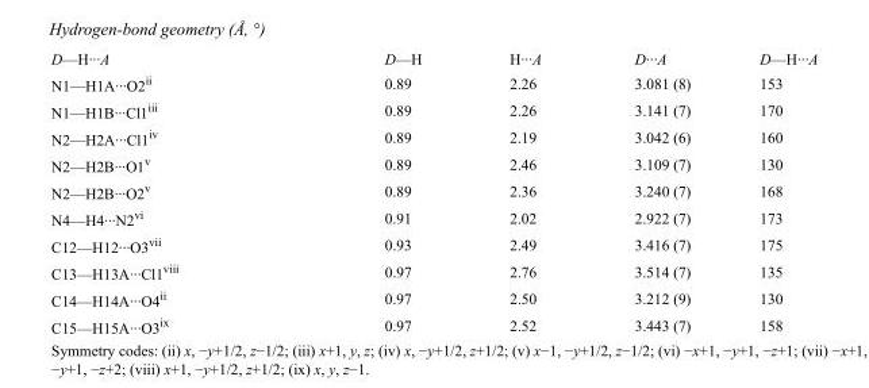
<table><tbody><tr><td>D—H···A</td><td>D—H</td><td>H···A</td><td>D···A</td><td>D—H···A</td></tr><tr><td>N1—H1A···O2<sup>ii</sup></td><td>0.89</td><td>2.26</td><td>3.081 (8)</td><td>153</td></tr><tr><td>N1—H1B···Cl1<sup>iii</sup></td><td>0.89</td><td>2.26</td><td>3.141 (7)</td><td>170</td></tr><tr><td>N2—H2A···Cl1<sup>iv</sup></td><td>0.89</td><td>2.19</td><td>3.042 (6)</td><td>160</td></tr><tr><td>N2—H2B···O1<sup>v</sup></td><td>0.89</td><td>2.46</td><td>3.109 (7)</td><td>130</td></tr><tr><td>N2—H2B···O2<sup>v</sup></td><td>0.89</td><td>2.36</td><td>3.240 (7)</td><td>168</td></tr><tr><td>N4—H4···N2<sup>vi</sup></td><td>0.91</td><td>2.02</td><td>2.922 (7)</td><td>173</td></tr><tr><td>C12—H12···O3<sup>vii</sup></td><td>0.93</td><td>2.49</td><td>3.416 (7)</td><td>175</td></tr><tr><td>C13—H13A···Cl1<sup>viii</sup></td><td>0.97</td><td>2.76</td><td>3.514 (7)</td><td>135</td></tr><tr><td>C14—H14A···O4<sup>ii</sup></td><td>0.97</td><td>2.50</td><td>3.212 (9)</td><td>130</td></tr><tr><td>C15—H15A···O3<sup>ix</sup></td><td>0.97</td><td>2.52</td><td>3.443 (7)</td><td>158</td></tr></tbody></table>